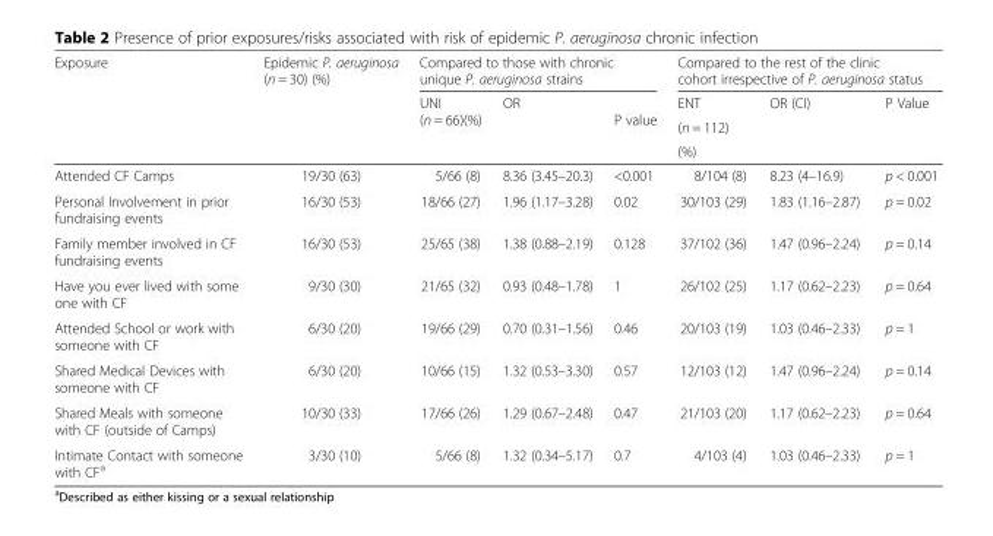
<table><thead><tr><td rowspan="4">Exposure</td><td rowspan="4">Epidemic P. aeruginosa (n = 30) (%)</td><td colspan="3">Compared to those with chronic unique P. aeruginosa strains</td><td colspan="3">Compared to the rest of the clinic cohort irrespective of P. aeruginosa status</td></tr><tr><td rowspan="3">UNI (n = 66)(%)</td><td rowspan="3">OR</td><td rowspan="3">P value</td><td rowspan="3">ENT (n = 112) (%)</td><td rowspan="3">OR (CI)</td><td rowspan="3">P Value</td></tr><tr></tr><tr></tr></thead><tbody><tr><td>Attended CF Camps</td><td>19/30 (63)</td><td>5/66 (8)</td><td>8.36 (3.45–20.3)</td><td>&lt;0.001</td><td>8/104 (8)</td><td>8.23 (4–16.9)</td><td>p &lt; 0.001</td></tr><tr><td>Personal Involvement in prior fundraising events</td><td>16/30 (53)</td><td>18/66 (27)</td><td>1.96 (1.17–3.28)</td><td>0.02</td><td>30/103 (29)</td><td>1.83 (1.16–2.87)</td><td>p = 0.02</td></tr><tr><td>Family member involved in CF fundraising events</td><td>16/30 (53)</td><td>25/65 (38)</td><td>1.38 (0.88–2.19)</td><td>0.128</td><td>37/102 (36)</td><td>1.47 (0.96–2.24)</td><td>p = 0.14</td></tr><tr><td>Have you ever lived with some one with CF</td><td>9/30 (30)</td><td>21/65 (32)</td><td>0.93 (0.48–1.78)</td><td>1</td><td>26/102 (25)</td><td>1.17 (0.62–2.23)</td><td>p = 0.64</td></tr><tr><td>Attended School or work with someone with CF</td><td>6/30 (20)</td><td>19/66 (29)</td><td>0.70 (0.31–1.56)</td><td>0.46</td><td>20/103 (19)</td><td>1.03 (0.46–2.33)</td><td>p = 1</td></tr><tr><td>Shared Medical Devices with someone with CF</td><td>6/30 (20)</td><td>10/66 (15)</td><td>1.32 (0.53–3.30)</td><td>0.57</td><td>12/103 (12)</td><td>1.47 (0.96–2.24)</td><td>p = 0.14</td></tr><tr><td>Shared Meals with someone with CF (outside of Camps)</td><td>10/30 (33)</td><td>17/66 (26)</td><td>1.29 (0.67–2.48)</td><td>0.47</td><td>21/103 (20)</td><td>1.17 (0.62–2.23)</td><td>p = 0.64</td></tr><tr><td>Intimate Contact with someone with CF<sup>a</sup></td><td>3/30 (10)</td><td>5/66 (8)</td><td>1.32 (0.34–5.17)</td><td>0.7</td><td>4/103 (4)</td><td>1.03 (0.46–2.33)</td><td>p = 1</td></tr></tbody></table>